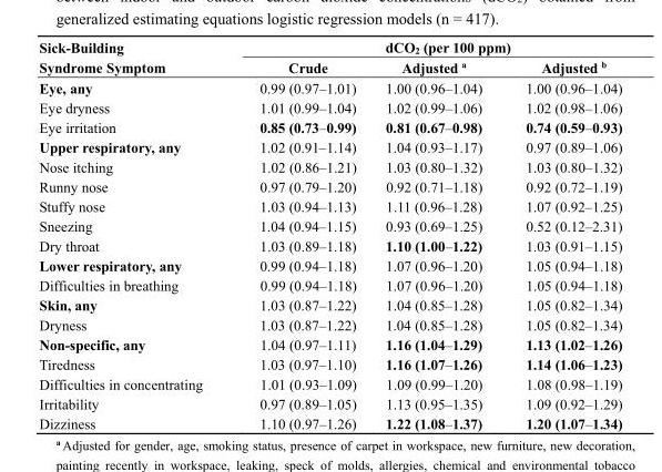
<table><thead><tr><td rowspan="2">Sick-Building Syndrome Symptom</td><td colspan="3">dCO<sub>2</sub> (per 100 ppm)</td></tr><tr><td>Crude</td><td>Adjusted <sup>a</sup></td><td>Adjusted <sup>b</sup></td></tr></thead><tbody><tr><td>Eye, any</td><td>0.99 (0.97–1.01)</td><td>1.00 (0.96–1.04)</td><td>1.00 (0.96–1.04)</td></tr><tr><td>Eye dryness</td><td>1.01 (0.99–1.04)</td><td>1.02 (0.99–1.06)</td><td>1.02 (0.98–1.06)</td></tr><tr><td>Eye irritation</td><td>0.85 (0.73–0.99)</td><td>0.81 (0.67–0.98)</td><td>0.74 (0.59–0.93)</td></tr><tr><td>Upper respiratory, any</td><td>1.02 (0.91–1.14)</td><td>1.04 (0.93–1.17)</td><td>0.97 (0.89–1.06)</td></tr><tr><td>Nose itching</td><td>1.02 (0.86–1.21)</td><td>1.03 (0.80–1.32)</td><td>1.03 (0.80–1.32)</td></tr><tr><td>Runny nose</td><td>0.97 (0.79–1.20)</td><td>0.92 (0.71–1.18)</td><td>0.92 (0.72–1.19)</td></tr><tr><td>Stuffy nose</td><td>1.03 (0.94–1.13)</td><td>1.11 (0.96–1.28)</td><td>1.07 (0.92–1.25)</td></tr><tr><td>Sneezing</td><td>1.04 (0.94–1.15)</td><td>0.93 (0.69–1.25)</td><td>0.52 (0.12–2.31)</td></tr><tr><td>Dry throat</td><td>1.03 (0.89–1.18)</td><td>1.10 (1.00–1.22)</td><td>1.03 (0.91–1.15)</td></tr><tr><td>Lower respiratory, any</td><td>0.99 (0.94–1.18)</td><td>1.07 (0.96–1.20)</td><td>1.05 (0.94–1.18)</td></tr><tr><td>Difficulties in breathing</td><td>0.99 (0.94–1.18)</td><td>1.07 (0.96–1.20)</td><td>1.05 (0.94–1.18)</td></tr><tr><td>Skin, any</td><td>1.03 (0.87–1.22)</td><td>1.04 (0.85–1.28)</td><td>1.05 (0.82–1.34)</td></tr><tr><td>Dryness</td><td>1.03 (0.87–1.22)</td><td>1.04 (0.85–1.28)</td><td>1.05 (0.82–1.34)</td></tr><tr><td>Non-specific, any</td><td>1.04 (0.97–1.11)</td><td>1.16 (1.04–1.29)</td><td>1.13 (1.02–1.26)</td></tr><tr><td>Tiredness</td><td>1.03 (0.97–1.10)</td><td>1.16 (1.07–1.26)</td><td>1.14 (1.06–1.23)</td></tr><tr><td>Difficulties in concentrating</td><td>1.01 (0.93–1.09)</td><td>1.09 (0.99–1.20)</td><td>1.08 (0.98–1.19)</td></tr><tr><td>Irritability</td><td>0.97 (0.89–1.05)</td><td>1.13 (0.95–1.35)</td><td>1.09 (0.92–1.29)</td></tr><tr><td>Dizziness</td><td>1.10 (0.97–1.26)</td><td>1.22 (1.08–1.37)</td><td>1.20 (1.07–1.34)</td></tr></tbody></table>